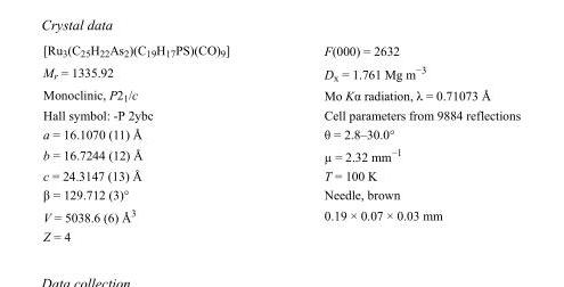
<table><tbody><tr><td>[Ru<sub>3</sub>(C<sub>25</sub>H<sub>22</sub>As<sub>2</sub>)(C<sub>19</sub>H<sub>17</sub>PS)(CO)<sub>9</sub>]</td><td>F(000) = 2632</td></tr><tr><td>M<sub>r</sub> = 1335.92</td><td>D<sub>x</sub> = 1.761 Mg m<sup>−3</sup></td></tr><tr><td>Monoclinic, P2<sub>1</sub>/c</td><td>Mo Kα radiation, λ = 0.71073 Å</td></tr><tr><td>Hall symbol: -P 2ybc</td><td>Cell parameters from 9884 reflections</td></tr><tr><td>a = 16.1070 (11) Å</td><td>θ = 2.8–30.0°</td></tr><tr><td>b = 16.7244 (12) Å</td><td>µ = 2.32 mm<sup>−1</sup></td></tr><tr><td>c = 24.3147 (13) Å</td><td>T = 100 K</td></tr><tr><td>β = 129.712 (3)°</td><td>Needle, brown</td></tr><tr><td>V = 5038.6 (6) Å<sup>3</sup></td><td>0.19 × 0.07 × 0.03 mm</td></tr><tr><td>Z = 4</td><td></td></tr></tbody></table>